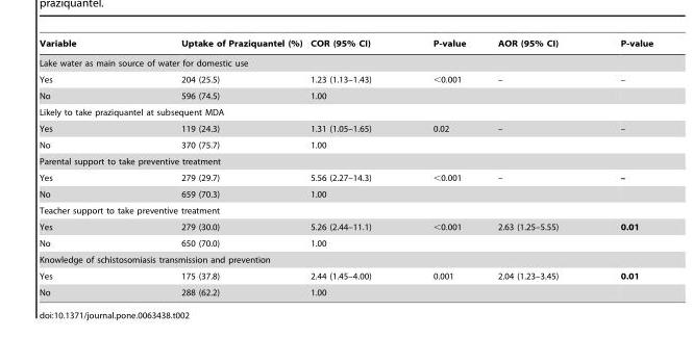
<table><thead><tr><td>Variable</td><td>Uptake of Praziquantel (%)</td><td>COR (95% CI)</td><td>P-value</td><td>AOR (95% CI)</td><td>P-value</td></tr></thead><tbody><tr><td colspan="6">Lake water as main source of water for domestic use</td></tr><tr><td>Yes</td><td>204 (25.5)</td><td>1.23 (1.13–1.43)</td><td>&lt;0.001</td><td>–</td><td>–</td></tr><tr><td>No</td><td>596 (74.5)</td><td>1.00</td><td></td><td></td><td></td></tr><tr><td colspan="6">Likely to take praziquantel at subsequent MDA</td></tr><tr><td>Yes</td><td>119 (24.3)</td><td>1.31 (1.05–1.65)</td><td>0.02</td><td>–</td><td>–</td></tr><tr><td>No</td><td>370 (75.7)</td><td>1.00</td><td></td><td></td><td></td></tr><tr><td colspan="6">Parental support to take preventive treatment</td></tr><tr><td>Yes</td><td>279 (29.7)</td><td>5.56 (2.27–14.3)</td><td>&lt;0.001</td><td>–</td><td>–</td></tr><tr><td>No</td><td>659 (70.3)</td><td>1.00</td><td></td><td></td><td></td></tr><tr><td colspan="6">Teacher support to take preventive treatment</td></tr><tr><td>Yes</td><td>279 (30.0)</td><td>5.26 (2.44–11.1)</td><td>&lt;0.001</td><td>2.63 (1.25–5.55)</td><td>0.01</td></tr><tr><td>No</td><td>650 (70.0)</td><td>1.00</td><td></td><td></td><td></td></tr><tr><td colspan="6">Knowledge of schistosomiasis transmission and prevention</td></tr><tr><td>Yes</td><td>175 (37.8)</td><td>2.44 (1.45–4.00)</td><td>0.001</td><td>2.04 (1.23–3.45)</td><td>0.01</td></tr><tr><td>No</td><td>288 (62.2)</td><td>1.00</td><td></td><td></td><td></td></tr></tbody></table>